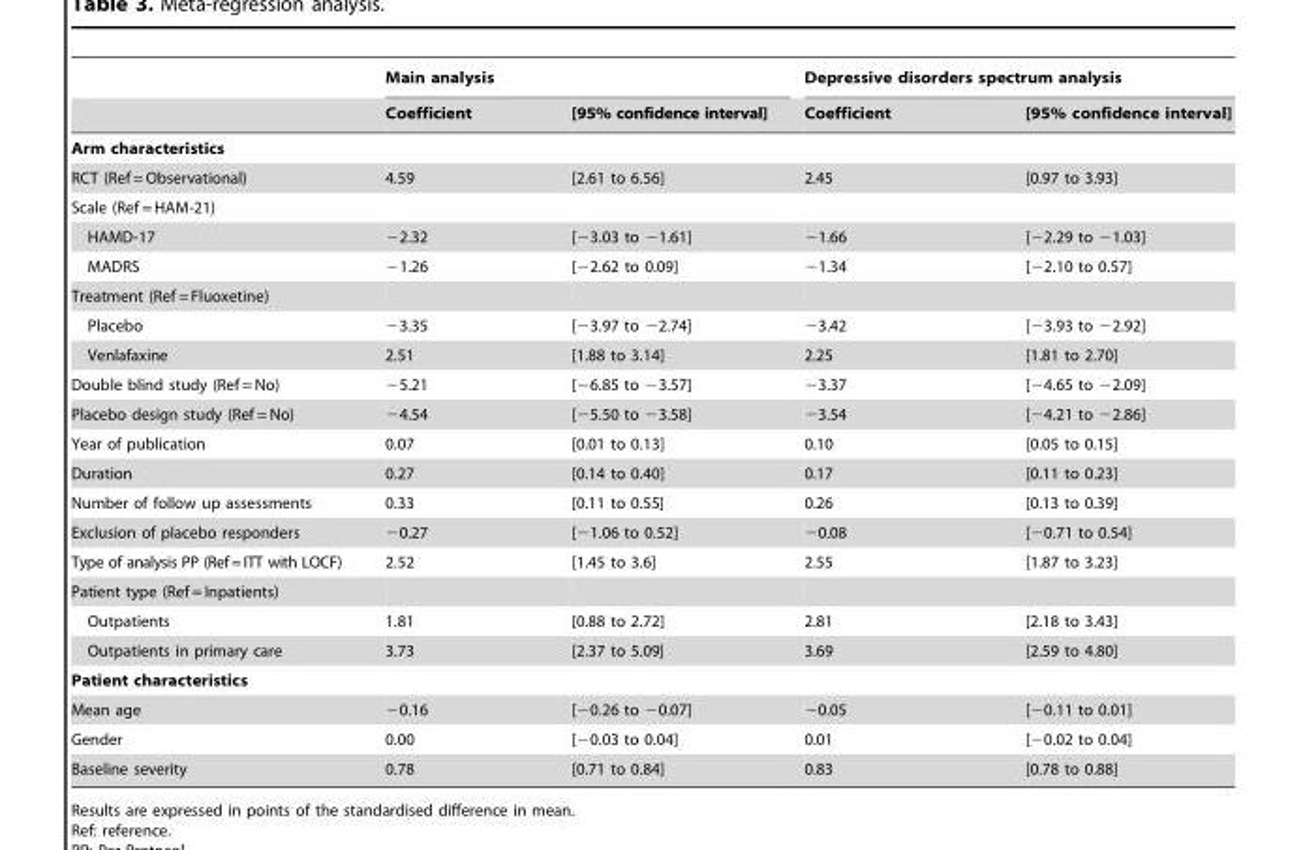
<table><thead><tr><td rowspan="2"></td><td colspan="2">Main analysis</td><td colspan="2">Depressive disorders spectrum analysis</td></tr><tr><td>Coefficient</td><td>[95% confidence interval]</td><td>Coefficient</td><td>[95% confidence interval]</td></tr></thead><tbody><tr><td colspan="5">Arm characteristics</td></tr><tr><td>RCT (Ref = Observational)</td><td>4.59</td><td>[2.61 to 6.56]</td><td>2.45</td><td>[0.97 to 3.93]</td></tr><tr><td colspan="5">Scale (Ref = HAM-21)</td></tr><tr><td>HAMD-17</td><td>−2.32</td><td>[−3.03 to −1.61]</td><td>−1.66</td><td>[−2.29 to −1.03]</td></tr><tr><td>MADRS</td><td>−1.26</td><td>[−2.62 to 0.09]</td><td>−1.34</td><td>[−2.10 to 0.57]</td></tr><tr><td colspan="5">Treatment (Ref = Fluoxetine)</td></tr><tr><td>Placebo</td><td>−3.35</td><td>[−3.97 to −2.74]</td><td>−3.42</td><td>[−3.93 to −2.92]</td></tr><tr><td>Venlafaxine</td><td>2.51</td><td>[1.88 to 3.14]</td><td>2.25</td><td>[1.81 to 2.70]</td></tr><tr><td>Double blind study (Ref = No)</td><td>−5.21</td><td>[−6.85 to −3.57]</td><td>−3.37</td><td>[−4.65 to −2.09]</td></tr><tr><td>Placebo design study (Ref = No)</td><td>−4.54</td><td>[−5.50 to −3.58]</td><td>−3.54</td><td>[−4.21 to −2.86]</td></tr><tr><td>Year of publication</td><td>0.07</td><td>[0.01 to 0.13]</td><td>0.10</td><td>[0.05 to 0.15]</td></tr><tr><td>Duration</td><td>0.27</td><td>[0.14 to 0.40]</td><td>0.17</td><td>[0.11 to 0.23]</td></tr><tr><td>Number of follow up assessments</td><td>0.33</td><td>[0.11 to 0.55]</td><td>0.26</td><td>[0.13 to 0.39]</td></tr><tr><td>Exclusion of placebo responders</td><td>−0.27</td><td>[−1.06 to 0.52]</td><td>−0.08</td><td>[−0.71 to 0.54]</td></tr><tr><td>Type of analysis PP (Ref=ITT with LOCF)</td><td>2.52</td><td>[1.45 to 3.6]</td><td>2.55</td><td>[1.87 to 3.23]</td></tr><tr><td colspan="5">Patient type (Ref = Inpatients)</td></tr><tr><td>Outpatients</td><td>1.81</td><td>[0.88 to 2.72]</td><td>2.81</td><td>[2.18 to 3.43]</td></tr><tr><td>Outpatients in primary care</td><td>3.73</td><td>[2.37 to 5.09]</td><td>3.69</td><td>[2.59 to 4.80]</td></tr><tr><td colspan="5">Patient characteristics</td></tr><tr><td>Mean age</td><td>−0.16</td><td>[−0.26 to −0.07]</td><td>−0.05</td><td>[−0.11 to 0.01]</td></tr><tr><td>Gender</td><td>0.00</td><td>[−0.03 to 0.04]</td><td>0.01</td><td>[−0.02 to 0.04]</td></tr><tr><td>Baseline severity</td><td>0.78</td><td>[0.71 to 0.84]</td><td>0.83</td><td>[0.78 to 0.88]</td></tr></tbody></table>